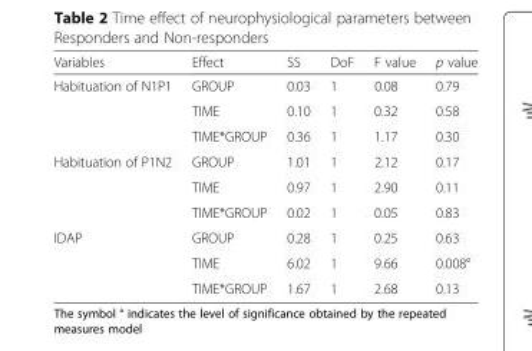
<table><thead><tr><td>Variables</td><td>Effect</td><td>SS</td><td>DoF</td><td>F value</td><td>p value</td></tr></thead><tbody><tr><td rowspan="3">Habituation of N1P1</td><td>GROUP</td><td>0.03</td><td>1</td><td>0.08</td><td>0.79</td></tr><tr><td>TIME</td><td>0.10</td><td>1</td><td>0.32</td><td>0.58</td></tr><tr><td>TIME*GROUP</td><td>0.36</td><td>1</td><td>1.17</td><td>0.30</td></tr><tr><td rowspan="3">Habituation of P1N2</td><td>GROUP</td><td>1.01</td><td>1</td><td>2.12</td><td>0.17</td></tr><tr><td>TIME</td><td>0.97</td><td>1</td><td>2.90</td><td>0.11</td></tr><tr><td>TIME*GROUP</td><td>0.02</td><td>1</td><td>0.05</td><td>0.83</td></tr><tr><td rowspan="3">IDAP</td><td>GROUP</td><td>0.28</td><td>1</td><td>0.25</td><td>0.63</td></tr><tr><td>TIME</td><td>6.02</td><td>1</td><td>9.66</td><td>0.008°</td></tr><tr><td>TIME*GROUP</td><td>1.67</td><td>1</td><td>2.68</td><td>0.13</td></tr></tbody></table>